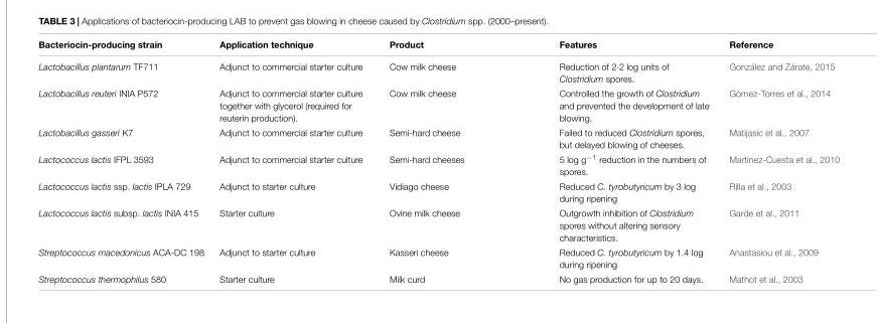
<table><thead><tr><td>Bacteriocin-producing strain</td><td>Application technique</td><td>Product</td><td>Features</td><td>Reference</td></tr></thead><tbody><tr><td>Lactobacillus plantarum TF711</td><td>Adjunct to commercial starter culture</td><td>Cow milk cheese</td><td>Reduction of 2·2 log units of Clostridium spores.</td><td>González and Zárate, 2015</td></tr><tr><td>Lactobacillus reuteri INIA P572</td><td>Adjunct to commercial starter culture together with glycerol (required for reuterin production).</td><td>Cow milk cheese</td><td>Controlled the growth of Clostridium and prevented the development of late blowing.</td><td>Gómez-Torres et al., 2014</td></tr><tr><td>Lactobacillus gasseri K7</td><td>Adjunct to commercial starter culture</td><td>Semi-hard cheese</td><td>Failed to reduced Clostridium spores, but delayed blowing of cheeses.</td><td>Matijasic et al., 2007</td></tr><tr><td>Lactococcus lactis IFPL 3593</td><td>Adjunct to commercial starter culture</td><td>Semi-hard cheeses</td><td>5 log g<sup>−1</sup> reduction in the numbers of spores.</td><td>Martínez-Cuesta et al., 2010</td></tr><tr><td>Lactococcus lactis ssp. lactis IPLA 729</td><td>Adjunct to starter culture</td><td>Vidiago cheese</td><td>Reduced C. tyrobutyricum by 3 log during ripening</td><td>Rilla et al., 2003</td></tr><tr><td>Lactococcus lactis subsp. lactis INIA 415</td><td>Starter culture</td><td>Ovine milk cheese</td><td>Outgrowth inhibition of Clostridium spores without altering sensory characteristics.</td><td>Garde et al., 2011</td></tr><tr><td>Streptococcus macedonicus ACA-DC 198</td><td>Adjunct to starter culture</td><td>Kasseri cheese</td><td>Reduced C. tyrobutyricum by 1.4 log during ripening</td><td>Anastasiou et al., 2009</td></tr><tr><td>Streptococcus thermophilus 580</td><td>Starter culture</td><td>Milk curd</td><td>No gas production for up to 20 days.</td><td>Mathot et al., 2003</td></tr></tbody></table>